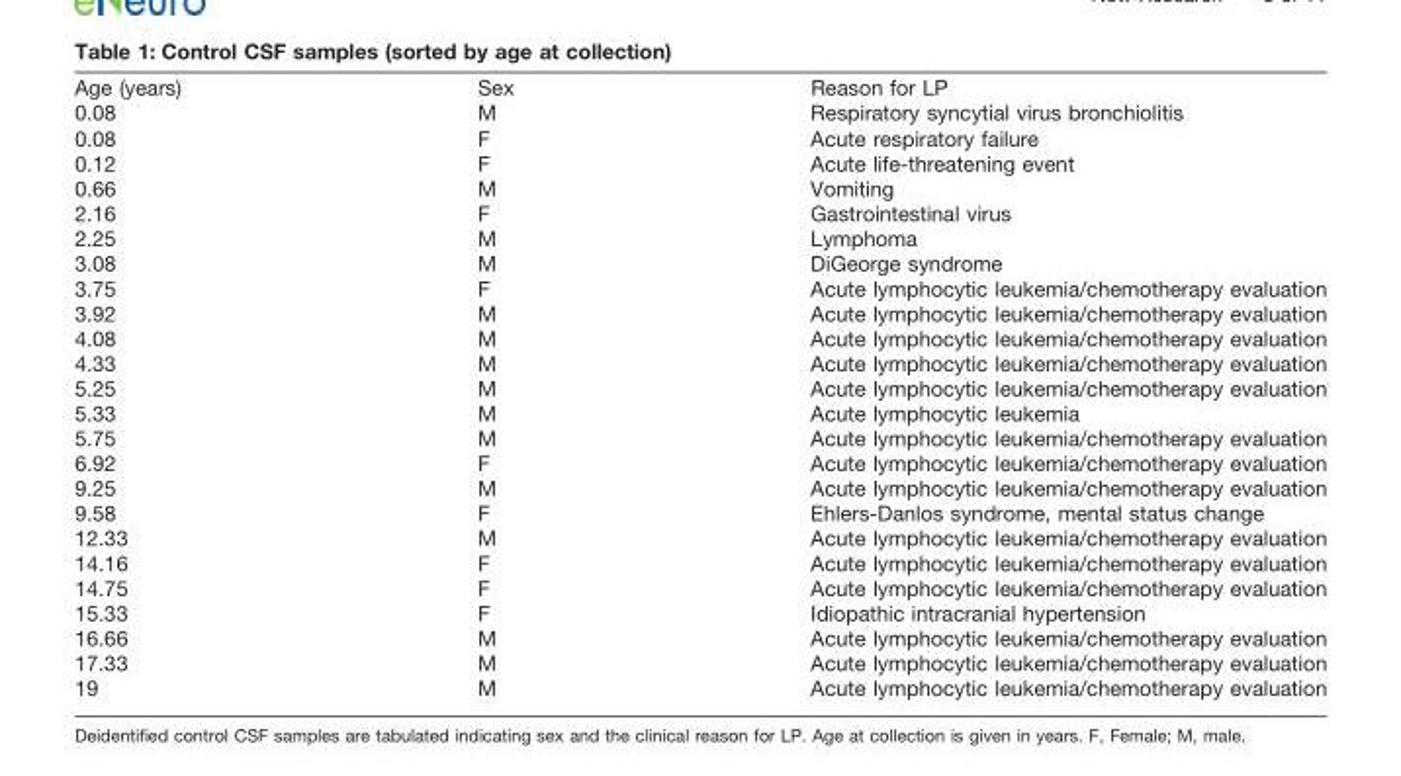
<table><thead><tr><td>Age (years)</td><td>Sex</td><td>Reason for LP</td></tr></thead><tbody><tr><td>0.08</td><td>M</td><td>Respiratory syncytial virus bronchiolitis</td></tr><tr><td>0.08</td><td>F</td><td>Acute respiratory failure</td></tr><tr><td>0.12</td><td>F</td><td>Acute life-threatening event</td></tr><tr><td>0.66</td><td>M</td><td>Vomiting</td></tr><tr><td>2.16</td><td>F</td><td>Gastrointestinal virus</td></tr><tr><td>2.25</td><td>M</td><td>Lymphoma</td></tr><tr><td>3.08</td><td>M</td><td>DiGeorge syndrome</td></tr><tr><td>3.75</td><td>F</td><td>Acute lymphocytic leukemia/chemotherapy evaluation</td></tr><tr><td>3.92</td><td>M</td><td>Acute lymphocytic leukemia/chemotherapy evaluation</td></tr><tr><td>4.08</td><td>M</td><td>Acute lymphocytic leukemia/chemotherapy evaluation</td></tr><tr><td>4.33</td><td>M</td><td>Acute lymphocytic leukemia/chemotherapy evaluation</td></tr><tr><td>5.25</td><td>M</td><td>Acute lymphocytic leukemia/chemotherapy evaluation</td></tr><tr><td>5.33</td><td>M</td><td>Acute lymphocytic leukemia</td></tr><tr><td>5.75</td><td>M</td><td>Acute lymphocytic leukemia/chemotherapy evaluation</td></tr><tr><td>6.92</td><td>F</td><td>Acute lymphocytic leukemia/chemotherapy evaluation</td></tr><tr><td>9.25</td><td>M</td><td>Acute lymphocytic leukemia/chemotherapy evaluation</td></tr><tr><td>9.58</td><td>F</td><td>Ehlers-Danlos syndrome, mental status change</td></tr><tr><td>12.33</td><td>M</td><td>Acute lymphocytic leukemia/chemotherapy evaluation</td></tr><tr><td>14.16</td><td>F</td><td>Acute lymphocytic leukemia/chemotherapy evaluation</td></tr><tr><td>14.75</td><td>F</td><td>Acute lymphocytic leukemia/chemotherapy evaluation</td></tr><tr><td>15.33</td><td>F</td><td>Idiopathic intracranial hypertension</td></tr><tr><td>16.66</td><td>M</td><td>Acute lymphocytic leukemia/chemotherapy evaluation</td></tr><tr><td>17.33</td><td>M</td><td>Acute lymphocytic leukemia/chemotherapy evaluation</td></tr><tr><td>19</td><td>M</td><td>Acute lymphocytic leukemia/chemotherapy evaluation</td></tr></tbody></table>